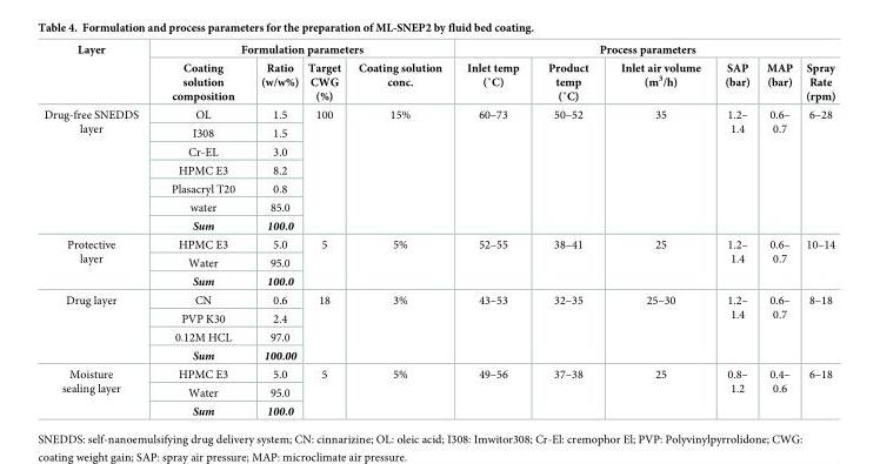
<table><thead><tr><td rowspan="2">Layer</td><td colspan="4">Formulation parameters</td><td colspan="6">Process parameters</td></tr><tr><td>Coating solution composition</td><td>Ratio (w/w%)</td><td>Target CWG (%)</td><td>Coating solution conc.</td><td>Inlet temp (˚C)</td><td>Product temp (˚C)</td><td>Inlet air volume (m<sup>3</sup>/h)</td><td>SAP (bar)</td><td>MAP (bar)</td><td>Spray Rate (rpm)</td></tr></thead><tbody><tr><td rowspan="7">Drug-free SNEDDS layer</td><td>OL</td><td>1.5</td><td rowspan="7">100</td><td rowspan="7">15%</td><td rowspan="7">60–73</td><td rowspan="7">50–52</td><td rowspan="7">35</td><td rowspan="7">1.2– 1.4</td><td rowspan="7">0.6– 0.7</td><td rowspan="7">6–28</td></tr><tr><td>I308</td><td>1.5</td></tr><tr><td>Cr-EL</td><td>3.0</td></tr><tr><td>HPMC E3</td><td>8.2</td></tr><tr><td>Plasacryl T20</td><td>0.8</td></tr><tr><td>water</td><td>85.0</td></tr><tr><td>Sum</td><td>100.0</td></tr><tr><td rowspan="3">Protective layer</td><td>HPMC E3</td><td>5.0</td><td rowspan="3">5</td><td rowspan="3">5%</td><td rowspan="3">52–55</td><td rowspan="3">38–41</td><td rowspan="3">25</td><td rowspan="3">1.2– 1.4</td><td rowspan="3">0.6– 0.7</td><td rowspan="3">10–14</td></tr><tr><td>Water</td><td>95.0</td></tr><tr><td>Sum</td><td>100.0</td></tr><tr><td rowspan="4">Drug layer</td><td>CN</td><td>0.6</td><td rowspan="4">18</td><td rowspan="4">3%</td><td rowspan="4">43–53</td><td rowspan="4">32–35</td><td rowspan="4">25–30</td><td rowspan="4">1.2– 1.4</td><td rowspan="4">0.6– 0.7</td><td rowspan="4">8–18</td></tr><tr><td>PVP K30</td><td>2.4</td></tr><tr><td>0.12M HCL</td><td>97.0</td></tr><tr><td>Sum</td><td>100.00</td></tr><tr><td rowspan="3">Moisture sealing layer</td><td>HPMC E3</td><td>5.0</td><td rowspan="3">5</td><td rowspan="3">5%</td><td rowspan="3">49–56</td><td rowspan="3">37–38</td><td rowspan="3">25</td><td rowspan="3">0.8– 1.2</td><td rowspan="3">0.4– 0.6</td><td rowspan="3">6–18</td></tr><tr><td>Water</td><td>95.0</td></tr><tr><td>Sum</td><td>100.0</td></tr></tbody></table>